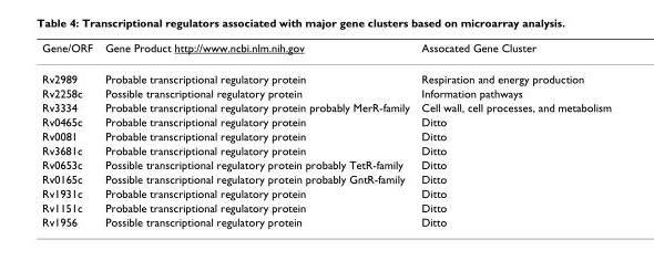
<table><thead><tr><td>Gene/ORF</td><td>Gene Product http://www.ncbi.nlm.nih.gov</td><td>Assocated Gene Cluster</td></tr></thead><tbody><tr><td>Rv2989</td><td>Probable transcriptional regulatory protein</td><td>Respiration and energy production</td></tr><tr><td>Rv2258c</td><td>Possible transcriptional regulatory protein</td><td>Information pathways</td></tr><tr><td>Rv3334</td><td>Probable transcriptional regulatory protein probably MerR-family</td><td>Cell wall, cell processes, and metabolism</td></tr><tr><td>Rv0465c</td><td>Probable transcriptional regulatory protein</td><td>Ditto</td></tr><tr><td>Rv0081</td><td>Probable transcriptional regulatory protein</td><td>Ditto</td></tr><tr><td>Rv3681c</td><td>Probable transcriptional regulatory protein</td><td>Ditto</td></tr><tr><td>Rv0653c</td><td>Possible transcriptional regulatory protein probably TetR-family</td><td>Ditto</td></tr><tr><td>Rv0165c</td><td>Possible transcriptional regulatory protein probably GntR-family</td><td>Ditto</td></tr><tr><td>Rv1931c</td><td>Probable transcriptional regulatory protein</td><td>Ditto</td></tr><tr><td>Rv1151c</td><td>Probable transcriptional regulatory protein</td><td>Ditto</td></tr><tr><td>Rv1956</td><td>Possible transcriptional regulatory protein</td><td>Ditto</td></tr></tbody></table>